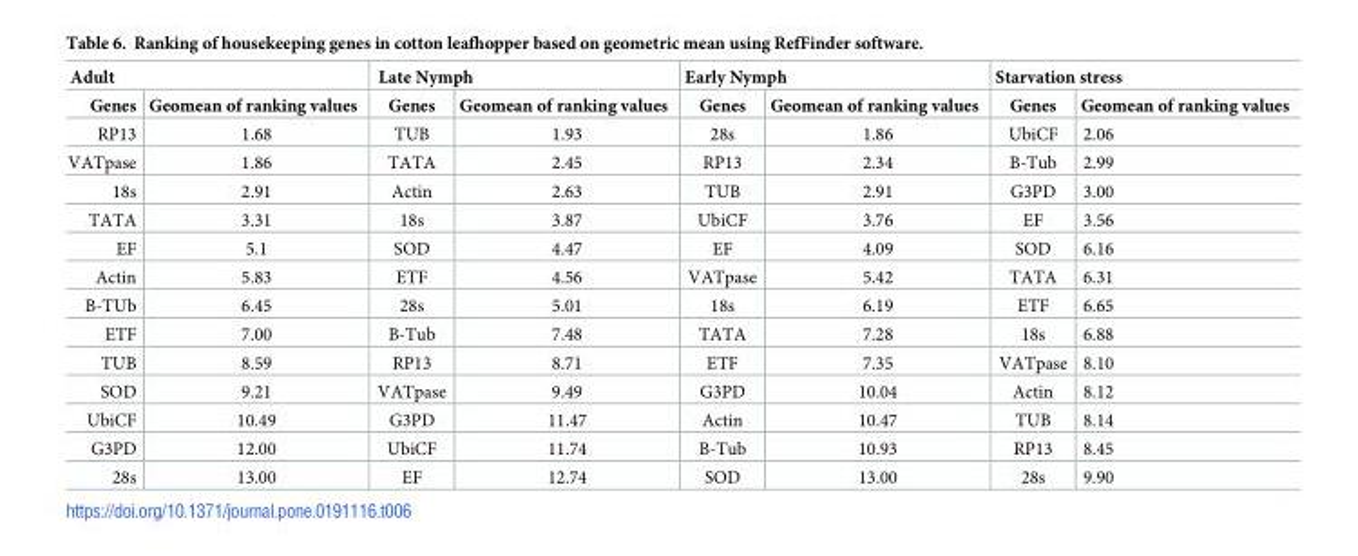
<table><thead><tr><td colspan="2">Adult</td><td colspan="2">Late Nymph</td><td colspan="2">Early Nymph</td><td colspan="2">Starvation stress</td></tr><tr><td>Genes</td><td>Geomean of ranking values</td><td>Genes</td><td>Geomean of ranking values</td><td>Genes</td><td>Geomean of ranking values</td><td>Genes</td><td>Geomean of ranking values</td></tr></thead><tbody><tr><td>RP13</td><td>1.68</td><td>TUB</td><td>1.93</td><td>28s</td><td>1.86</td><td>UbiCF</td><td>2.06</td></tr><tr><td>VATpase</td><td>1.86</td><td>TATA</td><td>2.45</td><td>RP13</td><td>2.34</td><td>B-Tub</td><td>2.99</td></tr><tr><td>18s</td><td>2.91</td><td>Actin</td><td>2.63</td><td>TUB</td><td>2.91</td><td>G3PD</td><td>3.00</td></tr><tr><td>TATA</td><td>3.31</td><td>18s</td><td>3.87</td><td>UbiCF</td><td>3.76</td><td>EF</td><td>3.56</td></tr><tr><td>EF</td><td>5.1</td><td>SOD</td><td>4.47</td><td>EF</td><td>4.09</td><td>SOD</td><td>6.16</td></tr><tr><td>Actin</td><td>5.83</td><td>ETF</td><td>4.56</td><td>VATpase</td><td>5.42</td><td>TATA</td><td>6.31</td></tr><tr><td>B-TUb</td><td>6.45</td><td>28s</td><td>5.01</td><td>18s</td><td>6.19</td><td>ETF</td><td>6.65</td></tr><tr><td>ETF</td><td>7.00</td><td>B-Tub</td><td>7.48</td><td>TATA</td><td>7.28</td><td>18s</td><td>6.88</td></tr><tr><td>TUB</td><td>8.59</td><td>RP13</td><td>8.71</td><td>ETF</td><td>7.35</td><td>VATpase</td><td>8.10</td></tr><tr><td>SOD</td><td>9.21</td><td>VATpase</td><td>9.49</td><td>G3PD</td><td>10.04</td><td>Actin</td><td>8.12</td></tr><tr><td>UbiCF</td><td>10.49</td><td>G3PD</td><td>11.47</td><td>Actin</td><td>10.47</td><td>TUB</td><td>8.14</td></tr><tr><td>G3PD</td><td>12.00</td><td>UbiCF</td><td>11.74</td><td>B-Tub</td><td>10.93</td><td>RP13</td><td>8.45</td></tr><tr><td>28s</td><td>13.00</td><td>EF</td><td>12.74</td><td>SOD</td><td>13.00</td><td>28s</td><td>9.90</td></tr></tbody></table>